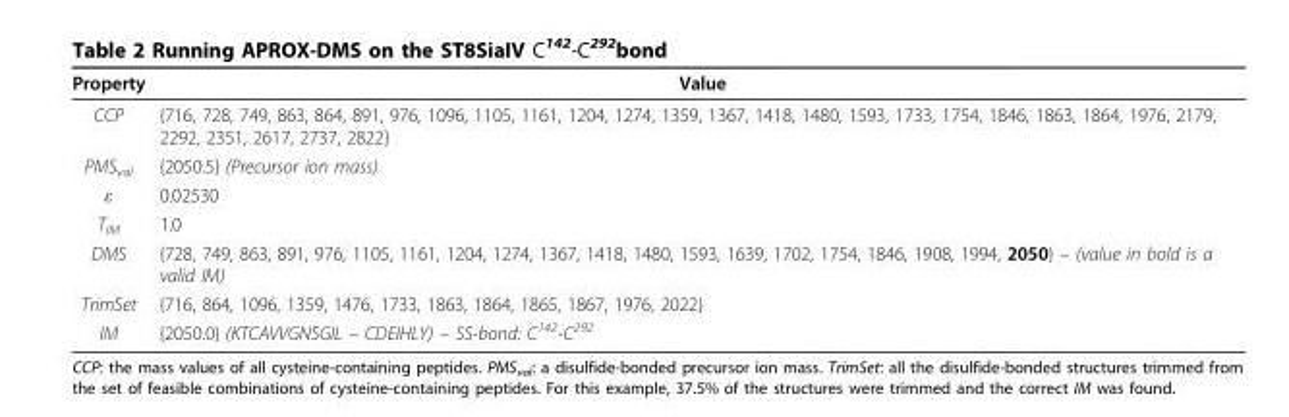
<table><thead><tr><td>Property</td><td>Value</td></tr></thead><tbody><tr><td>CCP</td><td>{716, 728, 749, 863, 864, 891, 976, 1096, 1105, 1161, 1204, 1274, 1359, 1367, 1418, 1480, 1593, 1733, 1754, 1846, 1863, 1864, 1976, 2179, 2292, 2351, 2617, 2737, 2822}</td></tr><tr><td>PMS<sub>val</sub></td><td>{2050.5} (Precursor ion mass)</td></tr><tr><td>ε</td><td>0.02530</td></tr><tr><td>T<sub>IM</sub></td><td>1.0</td></tr><tr><td>DMS</td><td>{728, 749, 863, 891, 976, 1105, 1161, 1204, 1274, 1367, 1418, 1480, 1593, 1639, 1702, 1754, 1846, 1908, 1994, 2050} – (value in bold is a valid IM)</td></tr><tr><td>TrimSet</td><td>{716, 864, 1096, 1359, 1476, 1733, 1863, 1864, 1865, 1867, 1976, 2022}</td></tr><tr><td>IM</td><td>{2050.0} (KTCAVVGNSGIL – CDEIHLY) – SS-bond: C<sup>142</sup>-C<sup>292</sup></td></tr></tbody></table>